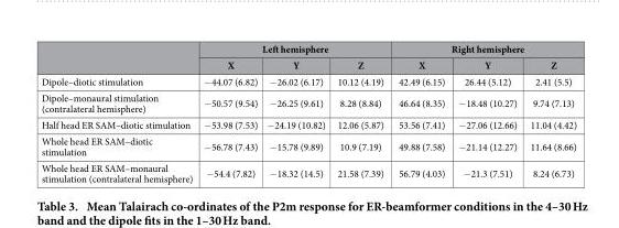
<table><thead><tr><td rowspan="2"></td><td colspan="3">Left hemisphere</td><td colspan="3">Right hemisphere</td></tr><tr><td>X</td><td>Y</td><td>Z</td><td>X</td><td>Y</td><td>Z</td></tr></thead><tbody><tr><td>Dipole–diotic stimulation</td><td>− 44.07 (6.82)</td><td>− 26.02 (6.17)</td><td>10.12 (4.19)</td><td>42.49 (6.15)</td><td>26.44 (5.12)</td><td>2.41 (5.5)</td></tr><tr><td>Dipole–monaural stimulation (contralateral hemisphere)</td><td>− 50.57 (9.54)</td><td>− 26.25 (9.61)</td><td>8.28 (8.84)</td><td>46.64 (8.35)</td><td>− 18.48 (10.27)</td><td>9.74 (7.13)</td></tr><tr><td>Half head ER SAM–diotic stimulation</td><td>− 53.98 (7.53)</td><td>− 24.19 (10.82)</td><td>12.06 (5.87)</td><td>53.56 (7.41)</td><td>− 27.06 (12.66)</td><td>11.04 (4.42)</td></tr><tr><td>Whole head ER SAM–diotic stimulation</td><td>− 56.78 (7.43)</td><td>− 15.78 (9.89)</td><td>10.9 (7.19)</td><td>49.88 (7.58)</td><td>− 21.14 (12.27)</td><td>11.64 (8.66)</td></tr><tr><td>Whole head ER SAM–monaural stimulation (contralateral hemisphere)</td><td>− 54.4 (7.82)</td><td>− 18.32 (14.5)</td><td>21.58 (7.39)</td><td>56.79 (4.03)</td><td>− 21.3 (7.51)</td><td>8.24 (6.73)</td></tr></tbody></table>